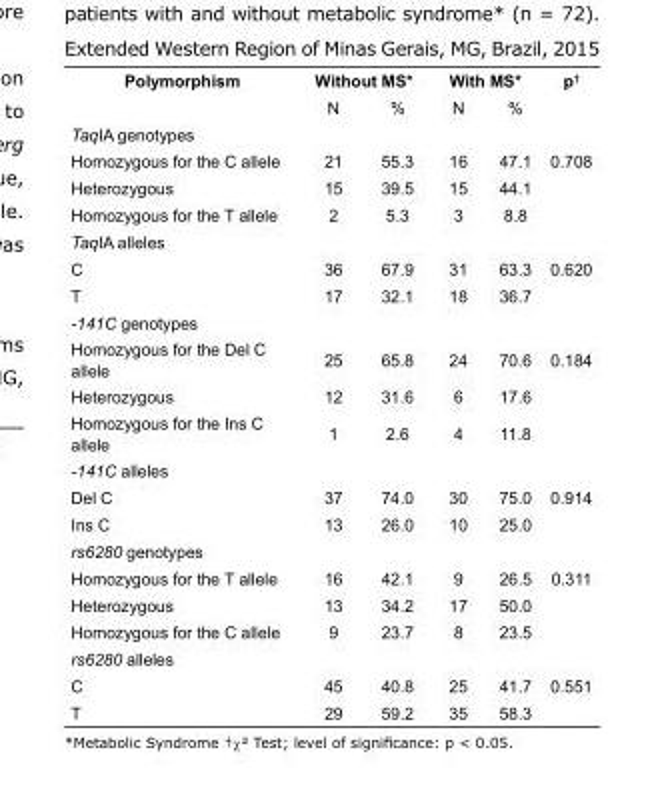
<table><tbody><tr><td rowspan="2">Polymorphism</td><td colspan="2">Without MS*</td><td colspan="2">With MS*</td><td>p<sup>†</sup></td></tr><tr><td>N</td><td>%</td><td>N</td><td>%</td><td></td></tr><tr><td colspan="6">TaqIA genotypes</td></tr><tr><td>Homozygous for the C allele</td><td>21</td><td>55.3</td><td>16</td><td>47.1</td><td>0.708</td></tr><tr><td>Heterozygous</td><td>15</td><td>39.5</td><td>15</td><td>44.1</td><td></td></tr><tr><td>Homozygous for the T allele</td><td>2</td><td>5.3</td><td>3</td><td>8.8</td><td></td></tr><tr><td colspan="6">TaqIA alleles</td></tr><tr><td>C</td><td>36</td><td>67.9</td><td>31</td><td>63.3</td><td>0.620</td></tr><tr><td>T</td><td>17</td><td>32.1</td><td>18</td><td>36.7</td><td></td></tr><tr><td colspan="6">-141C genotypes</td></tr><tr><td>Homozygous for the Del C allele</td><td>25</td><td>65.8</td><td>24</td><td>70.6</td><td>0.184</td></tr><tr><td>Heterozygous</td><td>12</td><td>31.6</td><td>6</td><td>17.6</td><td></td></tr><tr><td>Homozygous for the Ins C allele</td><td>1</td><td>2.6</td><td>4</td><td>11.8</td><td></td></tr><tr><td colspan="6">-141C alleles</td></tr><tr><td>Del C</td><td>37</td><td>74.0</td><td>30</td><td>75.0</td><td>0.914</td></tr><tr><td>Ins C</td><td>13</td><td>26.0</td><td>10</td><td>25.0</td><td></td></tr><tr><td colspan="6">rs6280 genotypes</td></tr><tr><td>Homozygous for the T allele</td><td>16</td><td>42.1</td><td>9</td><td>26.5</td><td>0.311</td></tr><tr><td>Heterozygous</td><td>13</td><td>34.2</td><td>17</td><td>50.0</td><td></td></tr><tr><td>Homozygous for the C allele</td><td>9</td><td>23.7</td><td>8</td><td>23.5</td><td></td></tr><tr><td colspan="6">rs6280 alleles</td></tr><tr><td>C</td><td>45</td><td>40.8</td><td>25</td><td>41.7</td><td>0.551</td></tr><tr><td>T</td><td>29</td><td>59.2</td><td>35</td><td>58.3</td><td></td></tr></tbody></table>